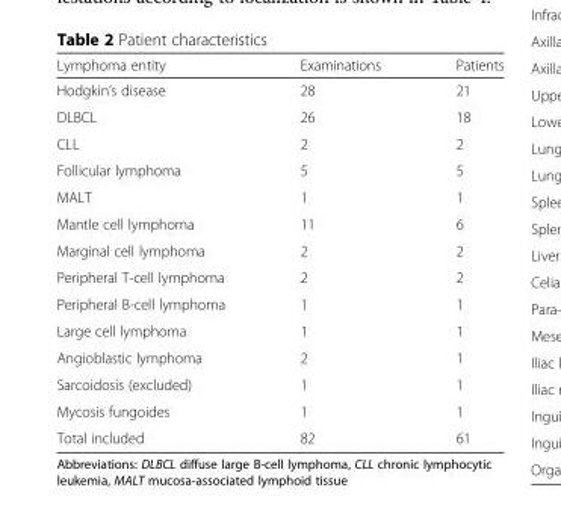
<table><thead><tr><td>Lymphoma entity</td><td>Examinations</td><td>Patients</td></tr></thead><tbody><tr><td>Hodgkin’s disease</td><td>28</td><td>21</td></tr><tr><td>DLBCL</td><td>26</td><td>18</td></tr><tr><td>CLL</td><td>2</td><td>2</td></tr><tr><td>Follicular lymphoma</td><td>5</td><td>5</td></tr><tr><td>MALT</td><td>1</td><td>1</td></tr><tr><td>Mantle cell lymphoma</td><td>11</td><td>6</td></tr><tr><td>Marginal cell lymphoma</td><td>2</td><td>2</td></tr><tr><td>Peripheral T-cell lymphoma</td><td>2</td><td>2</td></tr><tr><td>Peripheral B-cell lymphoma</td><td>1</td><td>1</td></tr><tr><td>Large cell lymphoma</td><td>1</td><td>1</td></tr><tr><td>Angioblastic lymphoma</td><td>2</td><td>1</td></tr><tr><td>Sarcoidosis (excluded)</td><td>1</td><td>1</td></tr><tr><td>Mycosis fungoides</td><td>1</td><td>1</td></tr><tr><td>Total included</td><td>82</td><td>61</td></tr></tbody></table>